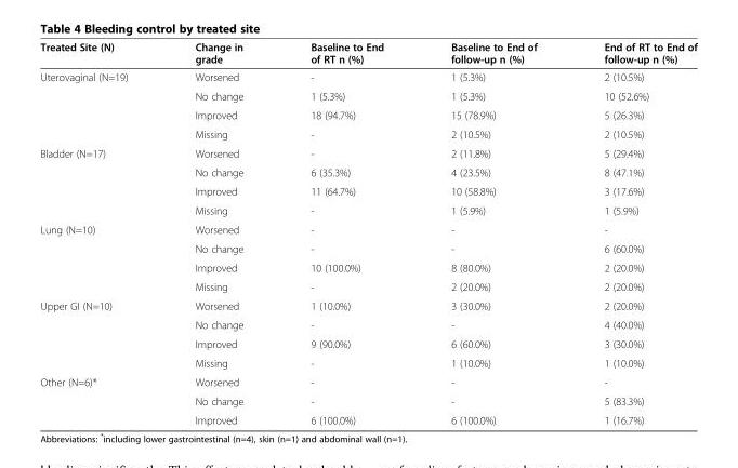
<table><thead><tr><td>Treated Site (N)</td><td>Change in grade</td><td>Baseline to End of RT n (%)</td><td>Baseline to End of follow-up n (%)</td><td>End of RT to End of follow-up n (%)</td></tr></thead><tbody><tr><td rowspan="4">Uterovaginal (N=19)</td><td>Worsened</td><td>-</td><td>1 (5.3%)</td><td>2 (10.5%)</td></tr><tr><td>No change</td><td>1 (5.3%)</td><td>1 (5.3%)</td><td>10 (52.6%)</td></tr><tr><td>Improved</td><td>18 (94.7%)</td><td>15 (78.9%)</td><td>5 (26.3%)</td></tr><tr><td>Missing</td><td>-</td><td>2 (10.5%)</td><td>2 (10.5%)</td></tr><tr><td rowspan="4">Bladder (N=17)</td><td>Worsened</td><td>-</td><td>2 (11.8%)</td><td>5 (29.4%)</td></tr><tr><td>No change</td><td>6 (35.3%)</td><td>4 (23.5%)</td><td>8 (47.1%)</td></tr><tr><td>Improved</td><td>11 (64.7%)</td><td>10 (58.8%)</td><td>3 (17.6%)</td></tr><tr><td>Missing</td><td>-</td><td>1 (5.9%)</td><td>1 (5.9%)</td></tr><tr><td rowspan="4">Lung (N=10)</td><td>Worsened</td><td>-</td><td>-</td><td>-</td></tr><tr><td>No change</td><td>-</td><td>-</td><td>6 (60.0%)</td></tr><tr><td>Improved</td><td>10 (100.0%)</td><td>8 (80.0%)</td><td>2 (20.0%)</td></tr><tr><td>Missing</td><td>-</td><td>2 (20.0%)</td><td>2 (20.0%)</td></tr><tr><td rowspan="4">Upper GI (N=10)</td><td>Worsened</td><td>1 (10.0%)</td><td>3 (30.0%)</td><td>2 (20.0%)</td></tr><tr><td>No change</td><td>-</td><td>-</td><td>4 (40.0%)</td></tr><tr><td>Improved</td><td>9 (90.0%)</td><td>6 (60.0%)</td><td>3 (30.0%)</td></tr><tr><td>Missing</td><td>-</td><td>1 (10.0%)</td><td>1 (10.0%)</td></tr><tr><td rowspan="3">Other (N=6)*</td><td>Worsened</td><td>-</td><td>-</td><td>-</td></tr><tr><td>No change</td><td>-</td><td>-</td><td>5 (83.3%)</td></tr><tr><td>Improved</td><td>6 (100.0%)</td><td>6 (100.0%)</td><td>1 (16.7%)</td></tr></tbody></table>